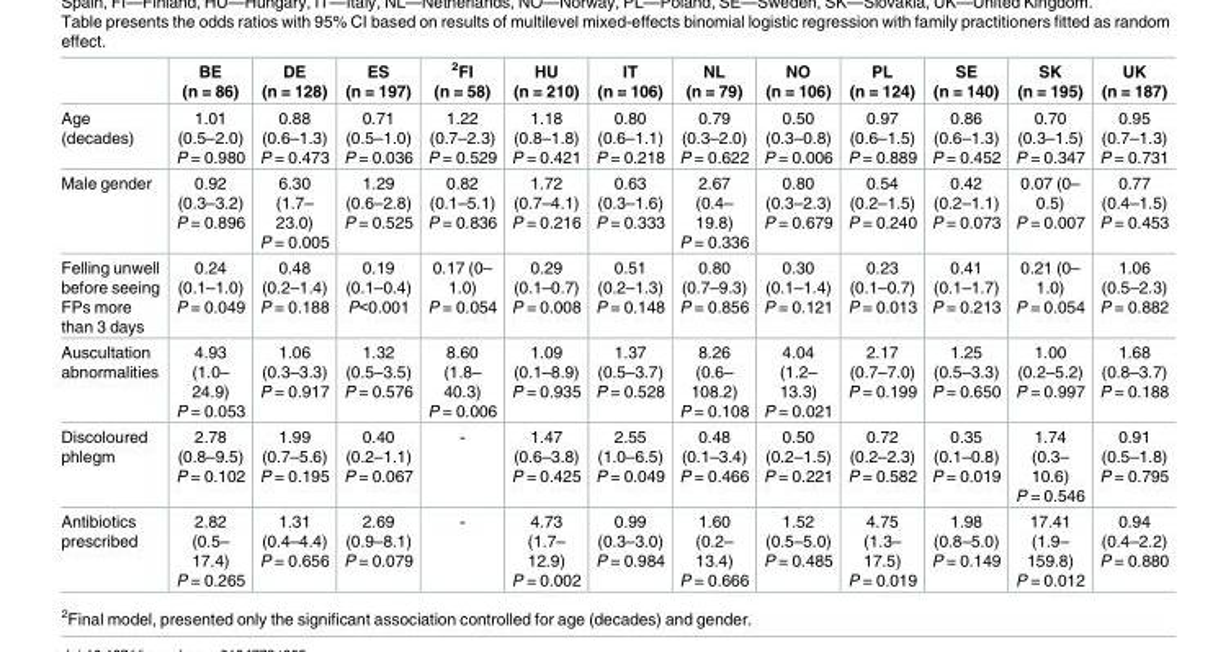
<table><thead><tr><td></td><td>BE (n = 86)</td><td>DE (n = 128)</td><td>ES (n = 197)</td><td><sup>2</sup>FI (n = 58)</td><td>HU (n = 210)</td><td>IT (n = 106)</td><td>NL (n = 79)</td><td>NO (n = 106)</td><td>PL (n = 124)</td><td>SE (n = 140)</td><td>SK (n = 195)</td><td>UK (n = 187)</td></tr></thead><tbody><tr><td>Age (decades)</td><td>1.01 (0.5–2.0) P = 0.980</td><td>0.88 (0.6–1.3) P = 0.473</td><td>0.71 (0.5–1.0) P = 0.036</td><td>1.22 (0.7–2.3) P = 0.529</td><td>1.18 (0.8–1.8) P = 0.421</td><td>0.80 (0.6–1.1) P = 0.218</td><td>0.79 (0.3–2.0) P = 0.622</td><td>0.50 (0.3–0.8) P = 0.006</td><td>0.97 (0.6–1.5) P = 0.889</td><td>0.86 (0.6–1.3) P = 0.452</td><td>0.70 (0.3–1.5) P = 0.347</td><td>0.95 (0.7–1.3) P = 0.731</td></tr><tr><td>Male gender</td><td>0.92 (0.3–3.2) P = 0.896</td><td>6.30 (1.7– 23.0) P = 0.005</td><td>1.29 (0.6–2.8) P = 0.525</td><td>0.82 (0.1–5.1) P = 0.836</td><td>1.72 (0.7–4.1) P = 0.216</td><td>0.63 (0.3–1.6) P = 0.333</td><td>2.67 (0.4– 19.8) P = 0.336</td><td>0.80 (0.3–2.3) P = 0.679</td><td>0.54 (0.2–1.5) P = 0.240</td><td>0.42 (0.2–1.1) P = 0.073</td><td>0.07 (0– 0.5) P = 0.007</td><td>0.77 (0.4–1.5) P = 0.453</td></tr><tr><td>Felling unwell before seeing FPs more than 3 days</td><td>0.24 (0.1–1.0) P = 0.049</td><td>0.48 (0.2–1.4) P = 0.188</td><td>0.19 (0.1–0.4) P&lt;0.001</td><td>0.17 (0– 1.0) P = 0.054</td><td>0.29 (0.1–0.7) P = 0.008</td><td>0.51 (0.2–1.3) P = 0.148</td><td>0.80 (0.7–9.3) P = 0.856</td><td>0.30 (0.1–1.4) P = 0.121</td><td>0.23 (0.1–0.7) P = 0.013</td><td>0.41 (0.1–1.7) P = 0.213</td><td>0.21 (0– 1.0) P = 0.054</td><td>1.06 (0.5–2.3) P = 0.882</td></tr><tr><td>Auscultation abnormalities</td><td>4.93 (1.0– 24.9) P = 0.053</td><td>1.06 (0.3–3.3) P = 0.917</td><td>1.32 (0.5–3.5) P = 0.576</td><td>8.60 (1.8– 40.3) P = 0.006</td><td>1.09 (0.1–8.9) P = 0.935</td><td>1.37 (0.5–3.7) P = 0.528</td><td>8.26 (0.6– 108.2) P = 0.108</td><td>4.04 (1.2– 13.3) P = 0.021</td><td>2.17 (0.7–7.0) P = 0.199</td><td>1.25 (0.5–3.3) P = 0.650</td><td>1.00 (0.2–5.2) P = 0.997</td><td>1.68 (0.8–3.7) P = 0.188</td></tr><tr><td>Discoloured phlegm</td><td>2.78 (0.8–9.5) P = 0.102</td><td>1.99 (0.7–5.6) P = 0.195</td><td>0.40 (0.2–1.1) P = 0.067</td><td>-</td><td>1.47 (0.6–3.8) P = 0.425</td><td>2.55 (1.0–6.5) P = 0.049</td><td>0.48 (0.1–3.4) P = 0.466</td><td>0.50 (0.2–1.5) P = 0.221</td><td>0.72 (0.2–2.3) P = 0.582</td><td>0.35 (0.1–0.8) P = 0.019</td><td>1.74 (0.3– 10.6) P = 0.546</td><td>0.91 (0.5–1.8) P = 0.795</td></tr><tr><td>Antibiotics prescribed</td><td>2.82 (0.5– 17.4) P = 0.265</td><td>1.31 (0.4–4.4) P = 0.656</td><td>2.69 (0.9–8.1) P = 0.079</td><td>-</td><td>4.73 (1.7– 12.9) P = 0.002</td><td>0.99 (0.3–3.0) P = 0.984</td><td>1.60 (0.2– 13.4) P = 0.666</td><td>1.52 (0.5–5.0) P = 0.485</td><td>4.75 (1.3– 17.5) P = 0.019</td><td>1.98 (0.8–5.0) P = 0.149</td><td>17.41 (1.9– 159.8) P = 0.012</td><td>0.94 (0.4–2.2) P = 0.880</td></tr></tbody></table>